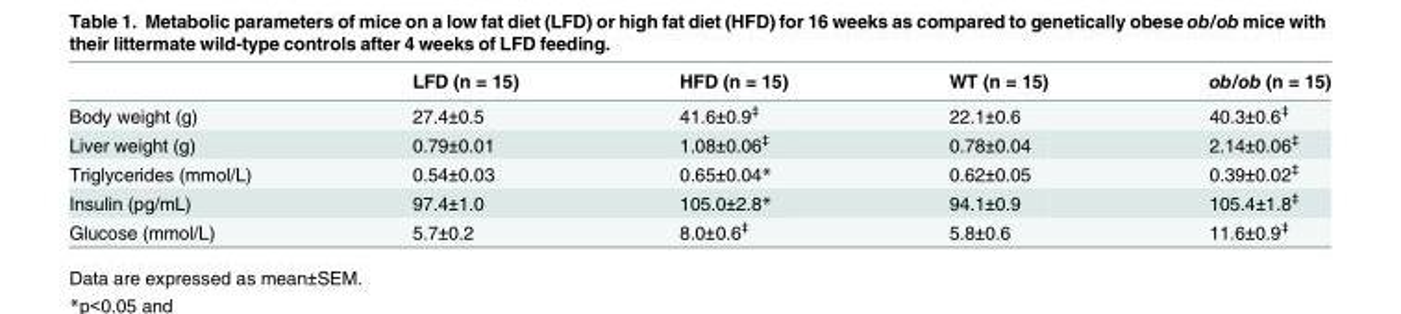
<table><thead><tr><td></td><td>LFD (n = 15)</td><td>HFD (n = 15)</td><td>WT (n = 15)</td><td>ob/ob (n = 15)</td></tr></thead><tbody><tr><td>Body weight (g)</td><td>27.4±0.5</td><td>41.6±0.9<sup>‡</sup></td><td>22.1±0.6</td><td>40.3±0.6<sup>‡</sup></td></tr><tr><td>Liver weight (g)</td><td>0.79±0.01</td><td>1.08±0.06<sup>‡</sup></td><td>0.78±0.04</td><td>2.14±0.06<sup>‡</sup></td></tr><tr><td>Triglycerides (mmol/L)</td><td>0.54±0.03</td><td>0.65±0.04*</td><td>0.62±0.05</td><td>0.39±0.02<sup>‡</sup></td></tr><tr><td>Insulin (pg/mL)</td><td>97.4±1.0</td><td>105.0±2.8*</td><td>94.1±0.9</td><td>105.4±1.8<sup>‡</sup></td></tr><tr><td>Glucose (mmol/L)</td><td>5.7±0.2</td><td>8.0±0.6<sup>‡</sup></td><td>5.8±0.6</td><td>11.6±0.9<sup>‡</sup></td></tr></tbody></table>